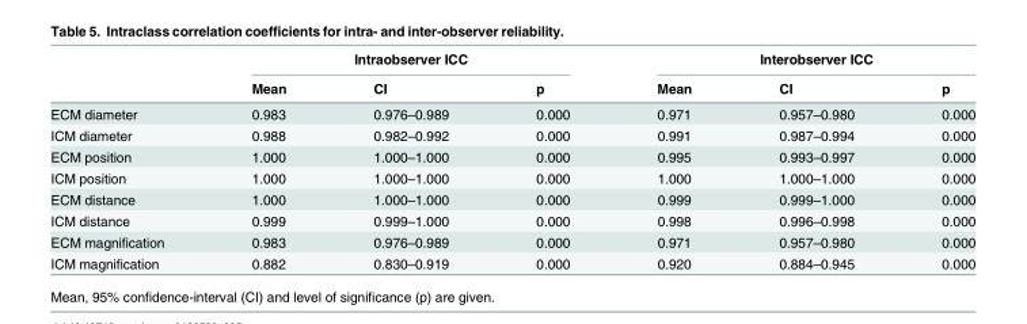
<table><thead><tr><td rowspan="2"></td><td colspan="3">Intraobserver ICC</td><td colspan="3">Interobserver ICC</td></tr><tr><td>Mean</td><td>CI</td><td>p</td><td>Mean</td><td>CI</td><td>p</td></tr></thead><tbody><tr><td>ECM diameter</td><td>0.983</td><td>0.976–0.989</td><td>0.000</td><td>0.971</td><td>0.957–0.980</td><td>0.000</td></tr><tr><td>ICM diameter</td><td>0.988</td><td>0.982–0.992</td><td>0.000</td><td>0.991</td><td>0.987–0.994</td><td>0.000</td></tr><tr><td>ECM position</td><td>1.000</td><td>1.000–1.000</td><td>0.000</td><td>0.995</td><td>0.993–0.997</td><td>0.000</td></tr><tr><td>ICM position</td><td>1.000</td><td>1.000–1.000</td><td>0.000</td><td>1.000</td><td>1.000–1.000</td><td>0.000</td></tr><tr><td>ECM distance</td><td>1.000</td><td>1.000–1.000</td><td>0.000</td><td>0.999</td><td>0.999–1.000</td><td>0.000</td></tr><tr><td>ICM distance</td><td>0.999</td><td>0.999–1.000</td><td>0.000</td><td>0.998</td><td>0.996–0.998</td><td>0.000</td></tr><tr><td>ECM magnification</td><td>0.983</td><td>0.976–0.989</td><td>0.000</td><td>0.971</td><td>0.957–0.980</td><td>0.000</td></tr><tr><td>ICM magnification</td><td>0.882</td><td>0.830–0.919</td><td>0.000</td><td>0.920</td><td>0.884–0.945</td><td>0.000</td></tr></tbody></table>